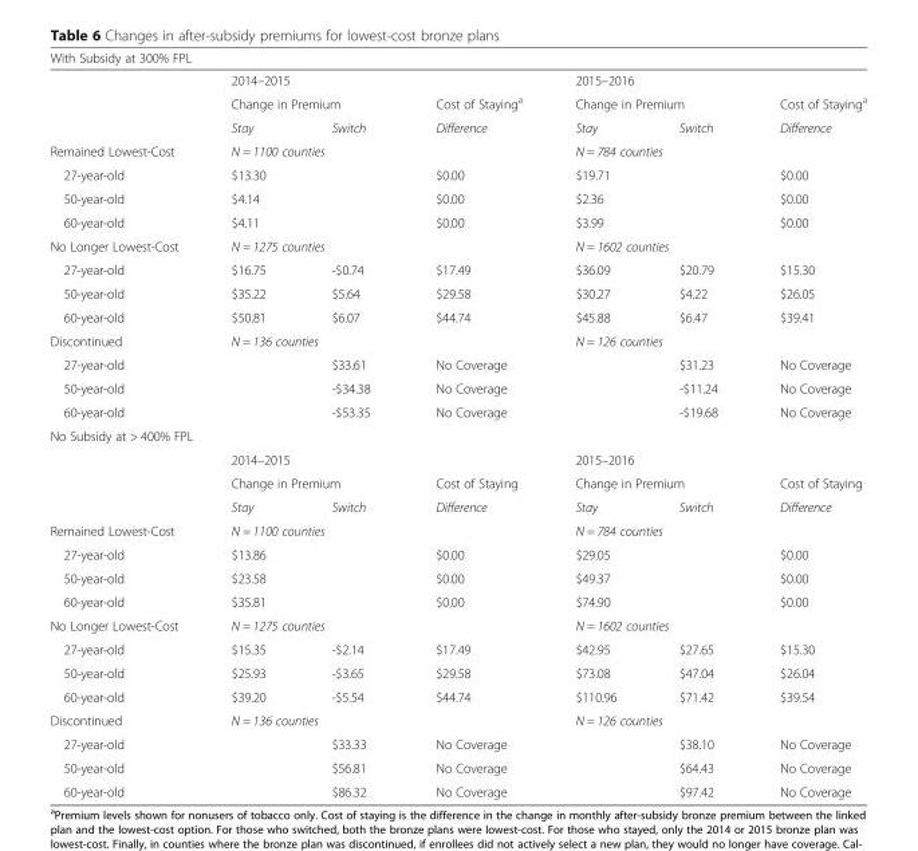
<table><thead><tr><td colspan="7">With Subsidy at 300% FPL</td></tr><tr><td rowspan="3"></td><td colspan="3">2014–2015</td><td colspan="3">2015–2016</td></tr><tr><td colspan="2">Change in Premium</td><td rowspan="2">Cost of Staying<sup>a</sup> Difference</td><td colspan="2">Change in Premium</td><td rowspan="2">Cost of Staying<sup>a</sup> Difference</td></tr><tr><td>Stay</td><td>Switch</td><td>Stay</td><td>Switch</td></tr></thead><tbody><tr><td>Remained Lowest-Cost</td><td colspan="3">N = 1100 counties</td><td colspan="3">N = 784 counties</td></tr><tr><td>27-year-old</td><td>$13.30</td><td></td><td>$0.00</td><td>$19.71</td><td></td><td>$0.00</td></tr><tr><td>50-year-old</td><td>$4.14</td><td></td><td>$0.00</td><td>$2.36</td><td></td><td>$0.00</td></tr><tr><td>60-year-old</td><td>$4.11</td><td></td><td>$0.00</td><td>$3.99</td><td></td><td>$0.00</td></tr><tr><td>No Longer Lowest-Cost</td><td colspan="3">N = 1275 counties</td><td colspan="3">N = 1602 counties</td></tr><tr><td>27-year-old</td><td>$16.75</td><td>-$0.74</td><td>$17.49</td><td>$36.09</td><td>$20.79</td><td>$15.30</td></tr><tr><td>50-year-old</td><td>$35.22</td><td>$5.64</td><td>$29.58</td><td>$30.27</td><td>$4.22</td><td>$26.05</td></tr><tr><td>60-year-old</td><td>$50.81</td><td>$6.07</td><td>$44.74</td><td>$45.88</td><td>$6.47</td><td>$39.41</td></tr><tr><td>Discontinued</td><td colspan="3">N = 136 counties</td><td colspan="3">N = 126 counties</td></tr><tr><td>27-year-old</td><td></td><td>$33.61</td><td>No Coverage</td><td></td><td>$31.23</td><td>No Coverage</td></tr><tr><td>50-year-old</td><td></td><td>-$34.38</td><td>No Coverage</td><td></td><td>-$11.24</td><td>No Coverage</td></tr><tr><td>60-year-old</td><td></td><td>-$53.35</td><td>No Coverage</td><td></td><td>-$19.68</td><td>No Coverage</td></tr><tr><td colspan="7">No Subsidy at &gt; 400% FPL</td></tr><tr><td rowspan="3"></td><td colspan="3">2014–2015</td><td colspan="3">2015–2016</td></tr><tr><td colspan="2">Change in Premium</td><td>Cost of Staying</td><td colspan="2">Change in Premium</td><td>Cost of Staying</td></tr><tr><td>Stay</td><td>Switch</td><td>Difference</td><td>Stay</td><td>Switch</td><td>Difference</td></tr><tr><td>Remained Lowest-Cost</td><td colspan="3">N = 1100 counties</td><td colspan="3">N = 784 counties</td></tr><tr><td>27-year-old</td><td>$13.86</td><td></td><td>$0.00</td><td>$29.05</td><td></td><td>$0.00</td></tr><tr><td>50-year-old</td><td>$23.58</td><td></td><td>$0.00</td><td>$49.37</td><td></td><td>$0.00</td></tr><tr><td>60-year-old</td><td>$35.81</td><td></td><td>$0.00</td><td>$74.90</td><td></td><td>$0.00</td></tr><tr><td>No Longer Lowest-Cost</td><td colspan="3">N = 1275 counties</td><td colspan="3">N = 1602 counties</td></tr><tr><td>27-year-old</td><td>$15.35</td><td>-$2.14</td><td>$17.49</td><td>$42.95</td><td>$27.65</td><td>$15.30</td></tr><tr><td>50-year-old</td><td>$25.93</td><td>-$3.65</td><td>$29.58</td><td>$73.08</td><td>$47.04</td><td>$26.04</td></tr><tr><td>60-year-old</td><td>$39.20</td><td>-$5.54</td><td>$44.74</td><td>$110.96</td><td>$71.42</td><td>$39.54</td></tr><tr><td>Discontinued</td><td colspan="3">N = 136 counties</td><td colspan="3">N = 126 counties</td></tr><tr><td>27-year-old</td><td></td><td>$33.33</td><td>No Coverage</td><td></td><td>$38.10</td><td>No Coverage</td></tr><tr><td>50-year-old</td><td></td><td>$56.81</td><td>No Coverage</td><td></td><td>$64.43</td><td>No Coverage</td></tr><tr><td>60-year-old</td><td></td><td>$86.32</td><td>No Coverage</td><td></td><td>$97.42</td><td>No Coverage</td></tr></tbody></table>